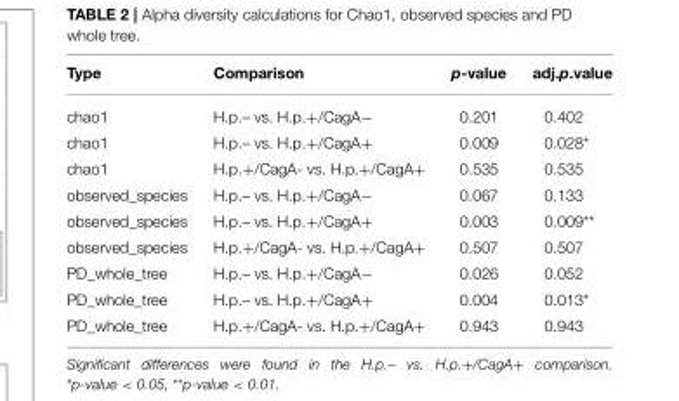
<table><thead><tr><td>Type</td><td>Comparison</td><td>p-value</td><td>adj.p.value</td></tr></thead><tbody><tr><td>chao1</td><td>H.p.– vs. H.p.+/CagA−</td><td>0.201</td><td>0.402</td></tr><tr><td>chao1</td><td>H.p.– vs. H.p.+/CagA+</td><td>0.009</td><td>0.028*</td></tr><tr><td>chao1</td><td>H.p.+/CagA- vs. H.p.+/CagA+</td><td>0.535</td><td>0.535</td></tr><tr><td>observed_species</td><td>H.p.– vs. H.p.+/CagA−</td><td>0.067</td><td>0.133</td></tr><tr><td>observed_species</td><td>H.p.– vs. H.p.+/CagA+</td><td>0.003</td><td>0.009**</td></tr><tr><td>observed_species</td><td>H.p.+/CagA- vs. H.p.+/CagA+</td><td>0.507</td><td>0.507</td></tr><tr><td>PD_whole_tree</td><td>H.p.– vs. H.p.+/CagA−</td><td>0.026</td><td>0.052</td></tr><tr><td>PD_whole_tree</td><td>H.p.– vs. H.p.+/CagA+</td><td>0.004</td><td>0.013*</td></tr><tr><td>PD_whole_tree</td><td>H.p.+/CagA- vs. H.p.+/CagA+</td><td>0.943</td><td>0.943</td></tr></tbody></table>